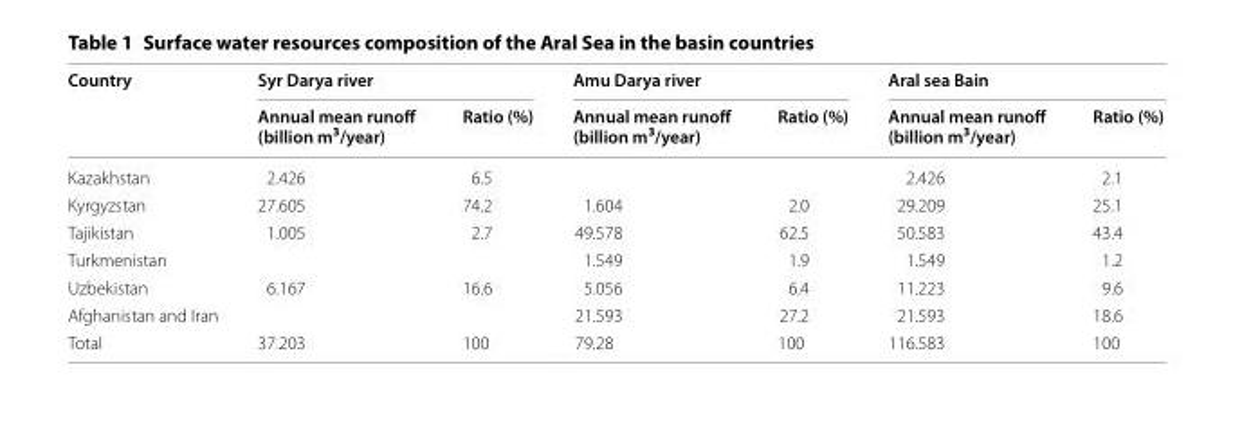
<table><thead><tr><td rowspan="2">Country</td><td colspan="2">Syr Darya river</td><td colspan="2">Amu Darya river</td><td colspan="2">Aral sea Bain</td></tr><tr><td>Annual mean runoff (billion m<sup>3</sup>/year)</td><td>Ratio (%)</td><td>Annual mean runoff (billion m<sup>3</sup>/year)</td><td>Ratio (%)</td><td>Annual mean runoff (billion m<sup>3</sup>/year)</td><td>Ratio (%)</td></tr></thead><tbody><tr><td>Kazakhstan</td><td>2.426</td><td>6.5</td><td></td><td></td><td>2.426</td><td>2.1</td></tr><tr><td>Kyrgyzstan</td><td>27.605</td><td>74.2</td><td>1.604</td><td>2.0</td><td>29.209</td><td>25.1</td></tr><tr><td>Tajikistan</td><td>1.005</td><td>2.7</td><td>49.578</td><td>62.5</td><td>50.583</td><td>43.4</td></tr><tr><td>Turkmenistan</td><td></td><td></td><td>1.549</td><td>1.9</td><td>1.549</td><td>1.2</td></tr><tr><td>Uzbekistan</td><td>6.167</td><td>16.6</td><td>5.056</td><td>6.4</td><td>11.223</td><td>9.6</td></tr><tr><td>Afghanistan and Iran</td><td></td><td></td><td>21.593</td><td>27.2</td><td>21.593</td><td>18.6</td></tr><tr><td>Total</td><td>37.203</td><td>100</td><td>79.28</td><td>100</td><td>116.583</td><td>100</td></tr></tbody></table>